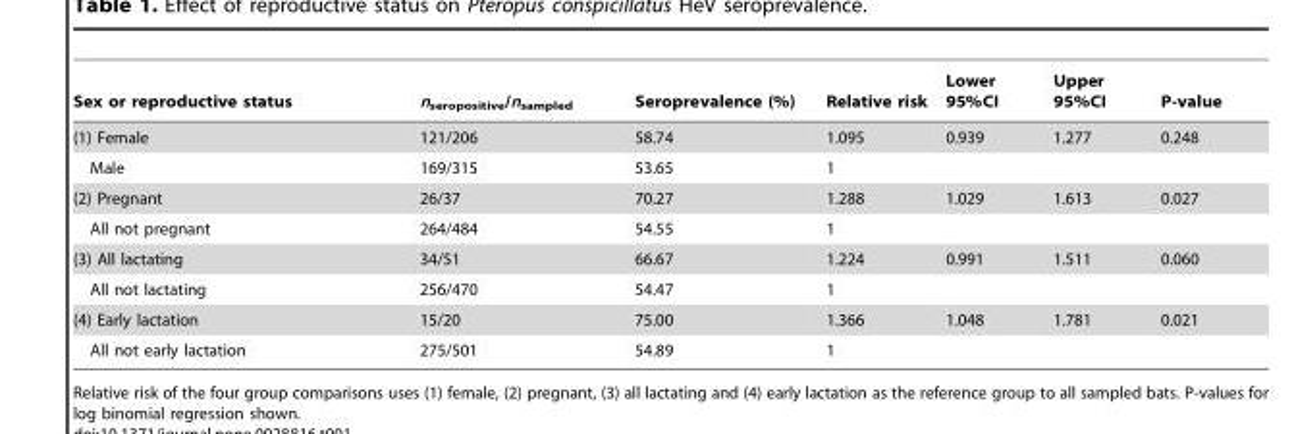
<table><thead><tr><td>Sex or reproductive status</td><td>n<sub>seropositive</sub>/n<sub>sampled</sub></td><td>Seroprevalence (%)</td><td>Relative risk</td><td>Lower 95%CI</td><td>Upper 95%CI</td><td>P-value</td></tr></thead><tbody><tr><td>(1) Female</td><td>121/206</td><td>58.74</td><td>1.095</td><td>0.939</td><td>1.277</td><td>0.248</td></tr><tr><td>Male</td><td>169/315</td><td>53.65</td><td>1</td><td></td><td></td><td></td></tr><tr><td>(2) Pregnant</td><td>26/37</td><td>70.27</td><td>1.288</td><td>1.029</td><td>1.613</td><td>0.027</td></tr><tr><td>All not pregnant</td><td>264/484</td><td>54.55</td><td>1</td><td></td><td></td><td></td></tr><tr><td>(3) All lactating</td><td>34/51</td><td>66.67</td><td>1.224</td><td>0.991</td><td>1.511</td><td>0.060</td></tr><tr><td>All not lactating</td><td>256/470</td><td>54.47</td><td>1</td><td></td><td></td><td></td></tr><tr><td>(4) Early lactation</td><td>15/20</td><td>75.00</td><td>1.366</td><td>1.048</td><td>1.781</td><td>0.021</td></tr><tr><td>All not early lactation</td><td>275/501</td><td>54.89</td><td>1</td><td></td><td></td><td></td></tr></tbody></table>